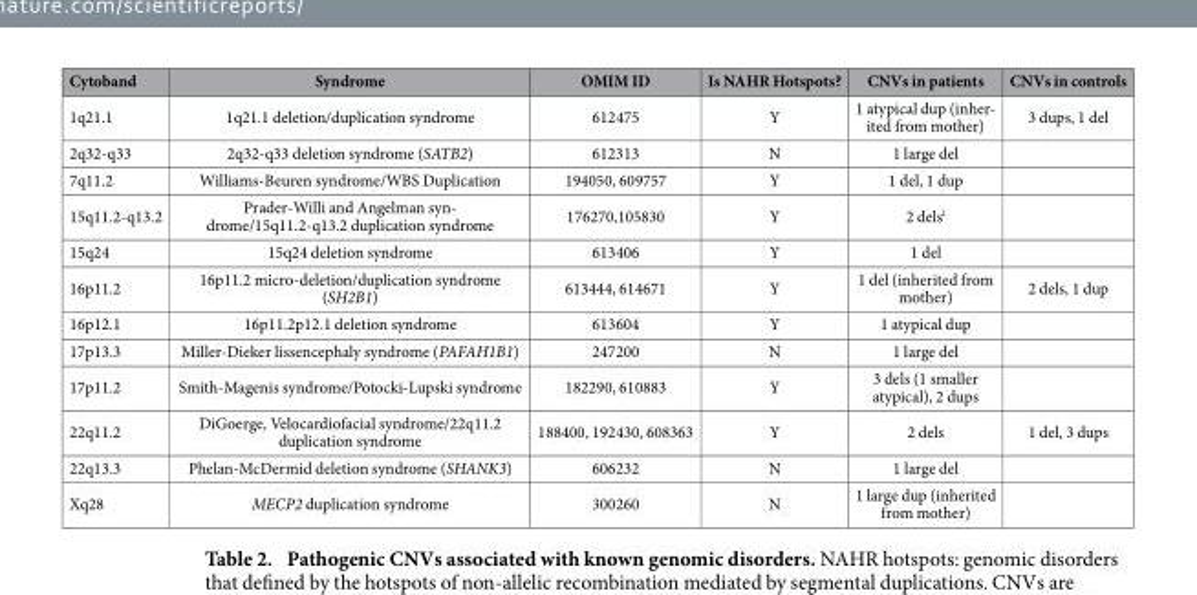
<table><thead><tr><td>Cytoband</td><td>Syndrome</td><td>OMIM ID</td><td>Is NAHR Hotspots?</td><td>CNVs in patients</td><td>CNVs in controls</td></tr></thead><tbody><tr><td>1q21.1</td><td>1q21.1 deletion/duplication syndrome</td><td>612475</td><td>Y</td><td>1 atypical dup (inher- ited from mother)</td><td>3 dups, 1 del</td></tr><tr><td>2q32-q33</td><td>2q32-q33 deletion syndrome (SATB2)</td><td>612313</td><td>N</td><td>1 large del</td><td></td></tr><tr><td>7q11.2</td><td>Williams-Beuren syndrome/WBS Duplication</td><td>194050, 609757</td><td>Y</td><td>1 del, 1 dup</td><td></td></tr><tr><td>15q11.2-q13.2</td><td>Prader-Willi and Angelman syn- drome/15q11.2-q13.2 duplication syndrome</td><td>176270,105830</td><td>Y</td><td>2 dels<sup>i</sup></td><td></td></tr><tr><td>15q24</td><td>15q24 deletion syndrome</td><td>613406</td><td>Y</td><td>1 del</td><td></td></tr><tr><td>16p11.2</td><td>16p11.2 micro-deletion/duplication syndrome (SH2B1)</td><td>613444, 614671</td><td>Y</td><td>1 del (inherited from mother)</td><td>2 dels, 1 dup</td></tr><tr><td>16p12.1</td><td>16p11.2p12.1 deletion syndrome</td><td>613604</td><td>Y</td><td>1 atypical dup</td><td></td></tr><tr><td>17p13.3</td><td>Miller-Dieker lissencephaly syndrome (PAFAH1B1)</td><td>247200</td><td>N</td><td>1 large del</td><td></td></tr><tr><td>17p11.2</td><td>Smith-Magenis syndrome/Potocki-Lupski syndrome</td><td>182290, 610883</td><td>Y</td><td>3 dels (1 smaller atypical), 2 dups</td><td></td></tr><tr><td>22q11.2</td><td>DiGoerge, Velocardiofacial syndrome/22q11.2 duplication syndrome</td><td>188400, 192430, 608363</td><td>Y</td><td>2 dels</td><td>1 del, 3 dups</td></tr><tr><td>22q13.3</td><td>Phelan-McDermid deletion syndrome (SHANK3)</td><td>606232</td><td>N</td><td>1 large del</td><td></td></tr><tr><td>Xq28</td><td>MECP2 duplication syndrome</td><td>300260</td><td>N</td><td>1 large dup (inherited from mother)</td><td></td></tr></tbody></table>